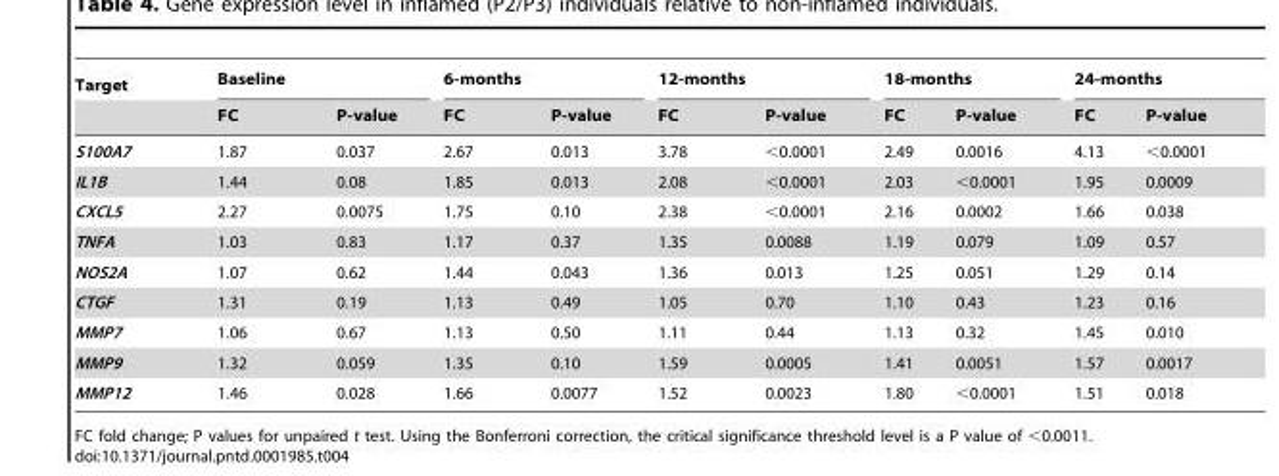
<table><thead><tr><td rowspan="2">Target</td><td colspan="2">Baseline</td><td colspan="2">6-months</td><td colspan="2">12-months</td><td colspan="2">18-months</td><td colspan="2">24-months</td></tr><tr><td>FC</td><td>P-value</td><td>FC</td><td>P-value</td><td>FC</td><td>P-value</td><td>FC</td><td>P-value</td><td>FC</td><td>P-value</td></tr></thead><tbody><tr><td>S100A7</td><td>1.87</td><td>0.037</td><td>2.67</td><td>0.013</td><td>3.78</td><td>&lt;0.0001</td><td>2.49</td><td>0.0016</td><td>4.13</td><td>&lt;0.0001</td></tr><tr><td>IL1B</td><td>1.44</td><td>0.08</td><td>1.85</td><td>0.013</td><td>2.08</td><td>&lt;0.0001</td><td>2.03</td><td>&lt;0.0001</td><td>1.95</td><td>0.0009</td></tr><tr><td>CXCL5</td><td>2.27</td><td>0.0075</td><td>1.75</td><td>0.10</td><td>2.38</td><td>&lt;0.0001</td><td>2.16</td><td>0.0002</td><td>1.66</td><td>0.038</td></tr><tr><td>TNFA</td><td>1.03</td><td>0.83</td><td>1.17</td><td>0.37</td><td>1.35</td><td>0.0088</td><td>1.19</td><td>0.079</td><td>1.09</td><td>0.57</td></tr><tr><td>NOS2A</td><td>1.07</td><td>0.62</td><td>1.44</td><td>0.043</td><td>1.36</td><td>0.013</td><td>1.25</td><td>0.051</td><td>1.29</td><td>0.14</td></tr><tr><td>CTGF</td><td>1.31</td><td>0.19</td><td>1.13</td><td>0.49</td><td>1.05</td><td>0.70</td><td>1.10</td><td>0.43</td><td>1.23</td><td>0.16</td></tr><tr><td>MMP7</td><td>1.06</td><td>0.67</td><td>1.13</td><td>0.50</td><td>1.11</td><td>0.44</td><td>1.13</td><td>0.32</td><td>1.45</td><td>0.010</td></tr><tr><td>MMP9</td><td>1.32</td><td>0.059</td><td>1.35</td><td>0.10</td><td>1.59</td><td>0.0005</td><td>1.41</td><td>0.0051</td><td>1.57</td><td>0.0017</td></tr><tr><td>MMP12</td><td>1.46</td><td>0.028</td><td>1.66</td><td>0.0077</td><td>1.52</td><td>0.0023</td><td>1.80</td><td>&lt;0.0001</td><td>1.51</td><td>0.018</td></tr></tbody></table>